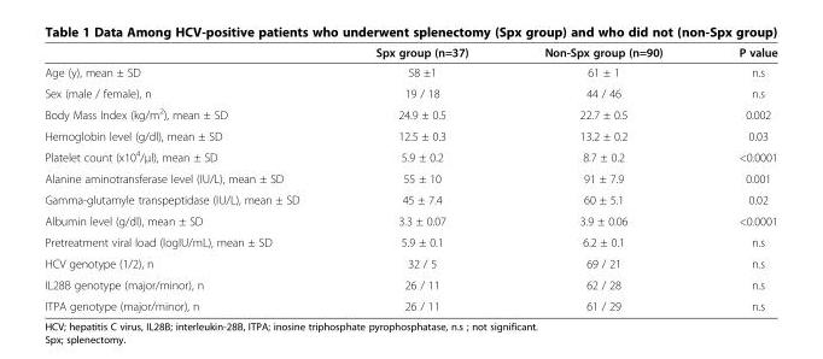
<table><thead><tr><td></td><td>Spx group (n=37)</td><td>Non-Spx group (n=90)</td><td>P value</td></tr></thead><tbody><tr><td>Age (y), mean ± SD</td><td>58 ±1</td><td>61 ± 1</td><td>n.s</td></tr><tr><td>Sex (male / female), n</td><td>19 / 18</td><td>44 / 46</td><td>n.s</td></tr><tr><td>Body Mass Index (kg/m<sup>2</sup>), mean ± SD</td><td>24.9 ± 0.5</td><td>22.7 ± 0.5</td><td>0.002</td></tr><tr><td>Hemoglobin level (g/dl), mean ± SD</td><td>12.5 ± 0.3</td><td>13.2 ± 0.2</td><td>0.03</td></tr><tr><td>Platelet count (x10<sup>4</sup>/μl), mean ± SD</td><td>5.9 ± 0.2</td><td>8.7 ± 0.2</td><td>&lt;0.0001</td></tr><tr><td>Alanine aminotransferase level (IU/L), mean ± SD</td><td>55 ± 10</td><td>91 ± 7.9</td><td>0.001</td></tr><tr><td>Gamma-glutamyle transpeptidase (IU/L), mean ± SD</td><td>45 ± 7.4</td><td>60 ± 5.1</td><td>0.02</td></tr><tr><td>Albumin level (g/dl), mean ± SD</td><td>3.3 ± 0.07</td><td>3.9 ± 0.06</td><td>&lt;0.0001</td></tr><tr><td>Pretreatment viral load (logIU/mL), mean ± SD</td><td>5.9 ± 0.1</td><td>6.2 ± 0.1</td><td>n.s</td></tr><tr><td>HCV genotype (1/2), n</td><td>32 / 5</td><td>69 / 21</td><td>n.s</td></tr><tr><td>IL28B genotype (major/minor), n</td><td>26 / 11</td><td>62 / 28</td><td>n.s</td></tr><tr><td>ITPA genotype (major/minor), n</td><td>26 / 11</td><td>61 / 29</td><td>n.s</td></tr></tbody></table>